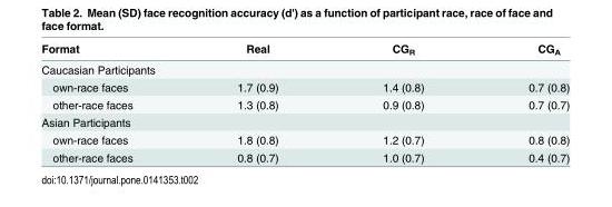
<table><thead><tr><td>Format</td><td>Real</td><td>CG<sub>R</sub></td><td>CG<sub>A</sub></td></tr></thead><tbody><tr><td colspan="4">Caucasian Participants</td></tr><tr><td>own-race faces</td><td>1.7 (0.9)</td><td>1.4 (0.8)</td><td>0.7 (0.8)</td></tr><tr><td>other-race faces</td><td>1.3 (0.8)</td><td>0.9 (0.8)</td><td>0.7 (0.7)</td></tr><tr><td colspan="4">Asian Participants</td></tr><tr><td>own-race faces</td><td>1.8 (0.8)</td><td>1.2 (0.7)</td><td>0.8 (0.8)</td></tr><tr><td>other-race faces</td><td>0.8 (0.7)</td><td>1.0 (0.7)</td><td>0.4 (0.7)</td></tr></tbody></table>